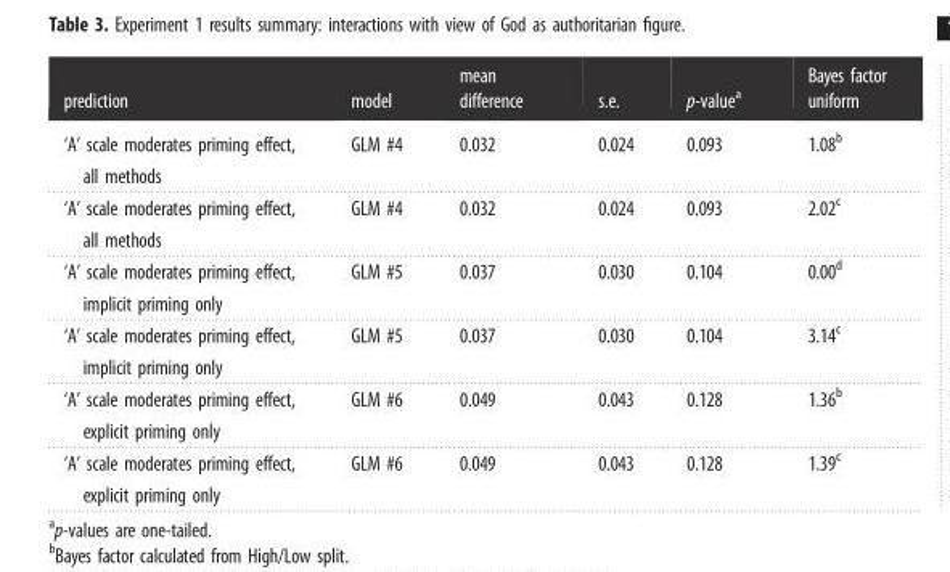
<table><thead><tr><td>prediction</td><td>model</td><td>mean difference</td><td>s.e.</td><td>p-value<sup>a</sup></td><td>Bayes factor uniform</td></tr></thead><tbody><tr><td>‘A’ scale moderates priming effect, all methods</td><td>GLM #4</td><td>0.032</td><td>0.024</td><td>0.093</td><td>1.08<sup>b</sup></td></tr><tr><td>‘A’ scale moderates priming effect, all methods</td><td>GLM #4</td><td>0.032</td><td>0.024</td><td>0.093</td><td>2.02<sup>c</sup></td></tr><tr><td>‘A’ scale moderates priming effect, implicit priming only</td><td>GLM #5</td><td>0.037</td><td>0.030</td><td>0.104</td><td>0.00<sup>d</sup></td></tr><tr><td>‘A’ scale moderates priming effect, implicit priming only</td><td>GLM #5</td><td>0.037</td><td>0.030</td><td>0.104</td><td>3.14<sup>c</sup></td></tr><tr><td>‘A’ scale moderates priming effect, explicit priming only</td><td>GLM #6</td><td>0.049</td><td>0.043</td><td>0.128</td><td>1.36<sup>b</sup></td></tr><tr><td>‘A’ scale moderates priming effect, explicit priming only</td><td>GLM #6</td><td>0.049</td><td>0.043</td><td>0.128</td><td>1.39<sup>c</sup></td></tr></tbody></table>